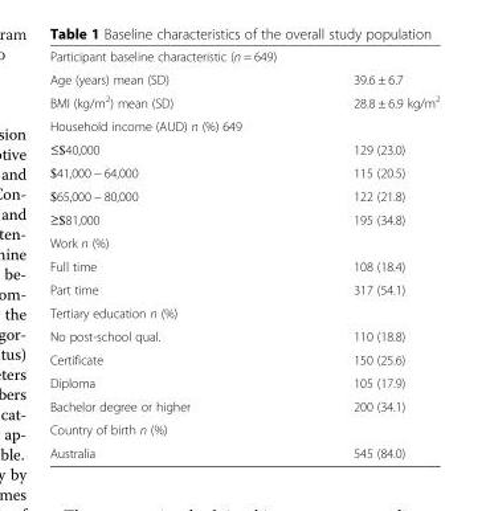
<table><tbody><tr><td colspan="2">Participant baseline characteristic (n = 649)</td></tr><tr><td>Age (years) mean (SD)</td><td>39.6 ± 6.7</td></tr><tr><td>BMI (kg/m<sup>2</sup>) mean (SD)</td><td>28.8 ± 6.9 kg/m<sup>2</sup></td></tr><tr><td colspan="2">Household income (AUD) n (%) 649</td></tr><tr><td>≤$40,000</td><td>129 (23.0)</td></tr><tr><td>$41,000 − 64,000</td><td>115 (20.5)</td></tr><tr><td>$65,000 − 80,000</td><td>122 (21.8)</td></tr><tr><td>≥$81,000</td><td>195 (34.8)</td></tr><tr><td colspan="2">Work n (%)</td></tr><tr><td>Full time</td><td>108 (18.4)</td></tr><tr><td>Part time</td><td>317 (54.1)</td></tr><tr><td colspan="2">Tertiary education n (%)</td></tr><tr><td>No post-school qual.</td><td>110 (18.8)</td></tr><tr><td>Certificate</td><td>150 (25.6)</td></tr><tr><td>Diploma</td><td>105 (17.9)</td></tr><tr><td>Bachelor degree or higher</td><td>200 (34.1)</td></tr><tr><td colspan="2">Country of birth n (%)</td></tr><tr><td>Australia</td><td>545 (84.0)</td></tr></tbody></table>